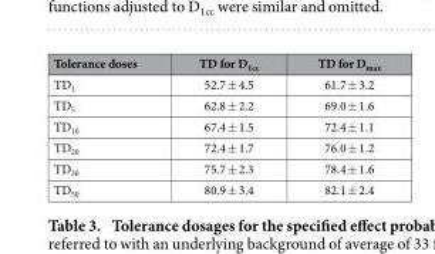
<table><thead><tr><td>Tolerance doses</td><td>TD for D<sub>1cc</sub></td><td>TD for D<sub>max</sub></td></tr></thead><tbody><tr><td>TD<sub>1</sub></td><td>52.7 ± 4.5</td><td>61.7 ± 3.2</td></tr><tr><td>TD<sub>5</sub></td><td>62.8 ± 2.2</td><td>69.0 ± 1.6</td></tr><tr><td>TD<sub>10</sub></td><td>67.4 ± 1.5</td><td>72.4 ± 1.1</td></tr><tr><td>TD<sub>20</sub></td><td>72.4 ± 1.7</td><td>76.0 ± 1.2</td></tr><tr><td>TD<sub>30</sub></td><td>75.7 ± 2.3</td><td>78.4 ± 1.6</td></tr><tr><td>TD<sub>50</sub></td><td>80.9 ± 3.4</td><td>82.1 ± 2.4</td></tr></tbody></table>